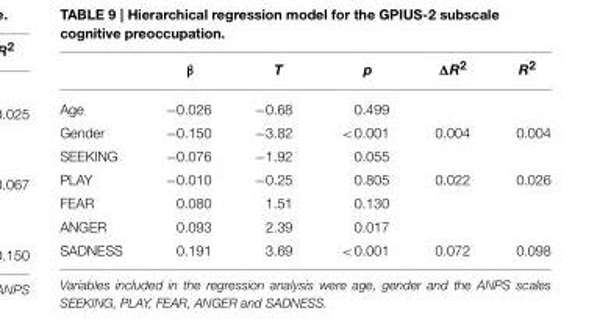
<table><thead><tr><td></td><td>β</td><td>T</td><td>p</td><td>ΔR<sup>2</sup></td><td>R<sup>2</sup></td></tr></thead><tbody><tr><td>Age</td><td>−0.026</td><td>−0.68</td><td>0.499</td><td></td><td></td></tr><tr><td>Gender</td><td>−0.150</td><td>−3.82</td><td>&lt;0.001</td><td>0.004</td><td>0.004</td></tr><tr><td>SEEKING</td><td>−0.076</td><td>−1.92</td><td>0.055</td><td></td><td></td></tr><tr><td>PLAY</td><td>−0.010</td><td>−0.25</td><td>0.805</td><td>0.022</td><td>0.026</td></tr><tr><td>FEAR</td><td>0.080</td><td>1.51</td><td>0.130</td><td></td><td></td></tr><tr><td>ANGER</td><td>0.093</td><td>2.39</td><td>0.017</td><td></td><td></td></tr><tr><td>SADNESS</td><td>0.191</td><td>3.69</td><td>&lt;0.001</td><td>0.072</td><td>0.098</td></tr></tbody></table>